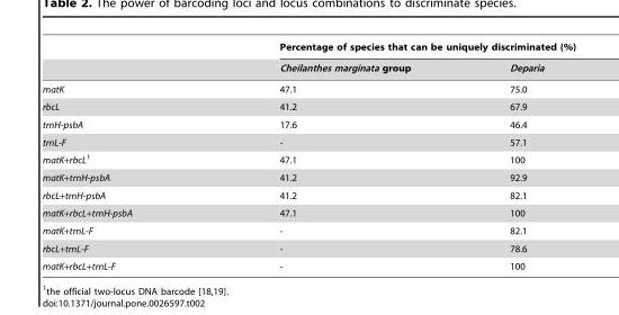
<table><thead><tr><td rowspan="2"></td><td colspan="2">Percentage of species that can be uniquely discriminated (%)</td></tr><tr><td>Cheilanthes marginata group</td><td>Deparia</td></tr></thead><tbody><tr><td>matK</td><td>47.1</td><td>75.0</td></tr><tr><td>rbcL</td><td>41.2</td><td>67.9</td></tr><tr><td>trnH-psbA</td><td>17.6</td><td>46.4</td></tr><tr><td>trnL-F</td><td>-</td><td>57.1</td></tr><tr><td>matK+rbcL1</td><td>47.1</td><td>100</td></tr><tr><td>matK+trnH-psbA</td><td>41.2</td><td>92.9</td></tr><tr><td>rbcL+trnH-psbA</td><td>41.2</td><td>82.1</td></tr><tr><td>matK+rbcL+trnH-psbA</td><td>47.1</td><td>100</td></tr><tr><td>matK+trnL-F</td><td>-</td><td>82.1</td></tr><tr><td>rbcL+trnL-F</td><td>-</td><td>78.6</td></tr><tr><td>matK+rbcL+trnL-F</td><td>-</td><td>100</td></tr></tbody></table>